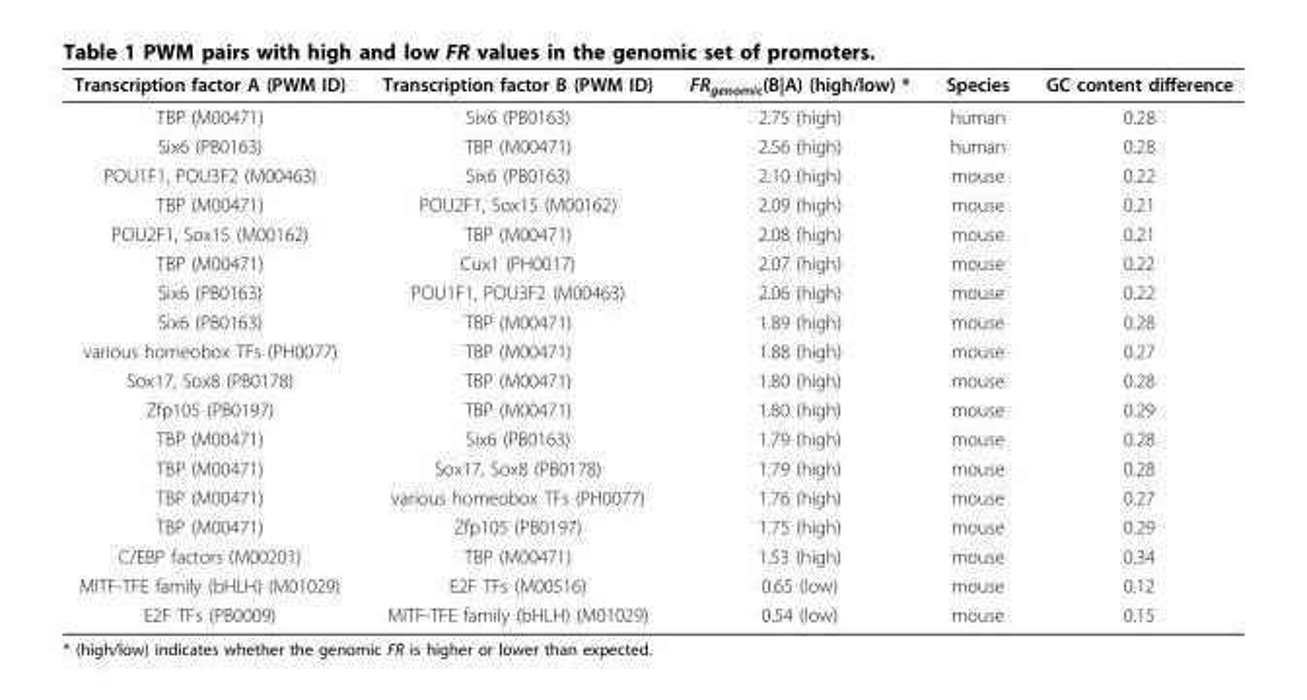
<table><thead><tr><td>Transcription factor A (PWM ID)</td><td>Transcription factor B (PWM ID)</td><td>FR<sub>genomic</sub>(B|A) (high/low) *</td><td>Species</td><td>GC content difference</td></tr></thead><tbody><tr><td>TBP (M00471)</td><td>Six6 (PB0163)</td><td>2.75 (high)</td><td>human</td><td>0.28</td></tr><tr><td>Six6 (PB0163)</td><td>TBP (M00471)</td><td>2.56 (high)</td><td>human</td><td>0.28</td></tr><tr><td>POU1F1, POU3F2 (M00463)</td><td>Six6 (PB0163)</td><td>2.10 (high)</td><td>mouse</td><td>0.22</td></tr><tr><td>TBP (M00471)</td><td>POU2F1, Sox15 (M00162)</td><td>2.09 (high)</td><td>mouse</td><td>0.21</td></tr><tr><td>POU2F1, Sox15 (M00162)</td><td>TBP (M00471)</td><td>2.08 (high)</td><td>mouse</td><td>0.21</td></tr><tr><td>TBP (M00471)</td><td>Cux1 (PH0017)</td><td>2.07 (high)</td><td>mouse</td><td>0.22</td></tr><tr><td>Six6 (PB0163)</td><td>POU1F1, POU3F2 (M00463)</td><td>2.06 (high)</td><td>mouse</td><td>0.22</td></tr><tr><td>Six6 (PB0163)</td><td>TBP (M00471)</td><td>1.89 (high)</td><td>mouse</td><td>0.28</td></tr><tr><td>various homeobox TFs (PH0077)</td><td>TBP (M00471)</td><td>1.88 (high)</td><td>mouse</td><td>0.27</td></tr><tr><td>Sox17, Sox8 (PB0178)</td><td>TBP (M00471)</td><td>1.80 (high)</td><td>mouse</td><td>0.28</td></tr><tr><td>Zfp105 (PB0197)</td><td>TBP (M00471)</td><td>1.80 (high)</td><td>mouse</td><td>0.29</td></tr><tr><td>TBP (M00471)</td><td>Six6 (PB0163)</td><td>1.79 (high)</td><td>mouse</td><td>0.28</td></tr><tr><td>TBP (M00471)</td><td>Sox17, Sox8 (PB0178)</td><td>1.79 (high)</td><td>mouse</td><td>0.28</td></tr><tr><td>TBP (M00471)</td><td>various homeobox TFs (PH0077)</td><td>1.76 (high)</td><td>mouse</td><td>0.27</td></tr><tr><td>TBP (M00471)</td><td>Zfp105 (PB0197)</td><td>1.75 (high)</td><td>mouse</td><td>0.29</td></tr><tr><td>C/EBP factors (M00201)</td><td>TBP (M00471)</td><td>1.53 (high)</td><td>mouse</td><td>0.34</td></tr><tr><td>MITF-TFE family (bHLH) (M01029)</td><td>E2F TFs (M00516)</td><td>0.65 (low)</td><td>mouse</td><td>0.12</td></tr><tr><td>E2F TFs (PB0009)</td><td>MITF-TFE family (bHLH) (M01029)</td><td>0.54 (low)</td><td>mouse</td><td>0.15</td></tr></tbody></table>